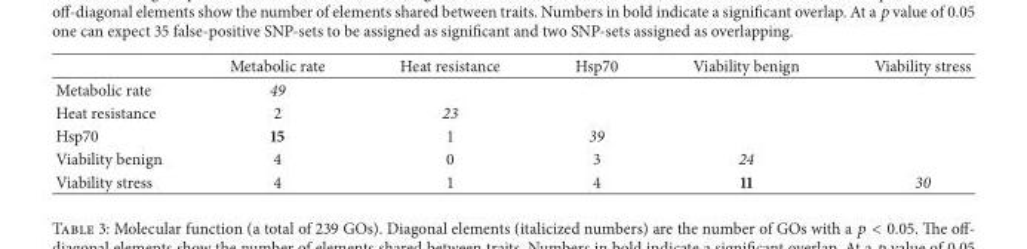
<table><thead><tr><td></td><td>Metabolic rate</td><td>Heat resistance</td><td>Hsp70</td><td>Viability benign</td><td>Viability stress</td></tr></thead><tbody><tr><td>Metabolic rate</td><td>49</td><td></td><td></td><td></td><td></td></tr><tr><td>Heat resistance</td><td>2</td><td>23</td><td></td><td></td><td></td></tr><tr><td>Hsp70</td><td>15</td><td>1</td><td>39</td><td></td><td></td></tr><tr><td>Viability benign</td><td>4</td><td>0</td><td>3</td><td>24</td><td></td></tr><tr><td>Viability stress</td><td>4</td><td>1</td><td>4</td><td>11</td><td>30</td></tr></tbody></table>